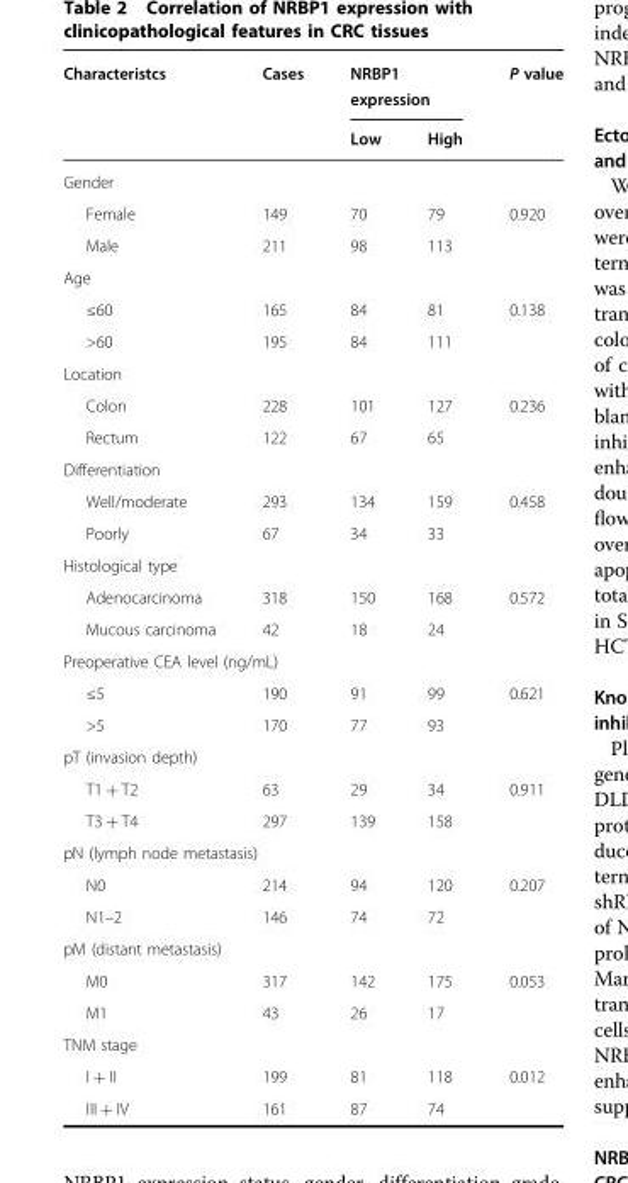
<table><thead><tr><td rowspan="2">Characteristcs</td><td rowspan="2">Cases</td><td colspan="2">NRBP1 expression</td><td rowspan="2">P value</td></tr><tr><td>Low</td><td>High</td></tr></thead><tbody><tr><td colspan="5">Gender</td></tr><tr><td>Female</td><td>149</td><td>70</td><td>79</td><td>0.920</td></tr><tr><td>Male</td><td>211</td><td>98</td><td>113</td><td></td></tr><tr><td colspan="5">Age</td></tr><tr><td>≤60</td><td>165</td><td>84</td><td>81</td><td>0.138</td></tr><tr><td>&gt;60</td><td>195</td><td>84</td><td>111</td><td></td></tr><tr><td colspan="5">Location</td></tr><tr><td>Colon</td><td>228</td><td>101</td><td>127</td><td>0.236</td></tr><tr><td>Rectum</td><td>122</td><td>67</td><td>65</td><td></td></tr><tr><td colspan="5">Differentiation</td></tr><tr><td>Well/moderate</td><td>293</td><td>134</td><td>159</td><td>0.458</td></tr><tr><td>Poorly</td><td>67</td><td>34</td><td>33</td><td></td></tr><tr><td colspan="5">Histological type</td></tr><tr><td>Adenocarcinoma</td><td>318</td><td>150</td><td>168</td><td>0.572</td></tr><tr><td>Mucous carcinoma</td><td>42</td><td>18</td><td>24</td><td></td></tr><tr><td colspan="5">Preoperative CEA level (ng/mL)</td></tr><tr><td>≤5</td><td>190</td><td>91</td><td>99</td><td>0.621</td></tr><tr><td>&gt;5</td><td>170</td><td>77</td><td>93</td><td></td></tr><tr><td colspan="5">pT (invasion depth)</td></tr><tr><td>T1 + T2</td><td>63</td><td>29</td><td>34</td><td>0.911</td></tr><tr><td>T3 + T4</td><td>297</td><td>139</td><td>158</td><td></td></tr><tr><td colspan="5">pN (lymph node metastasis)</td></tr><tr><td>N0</td><td>214</td><td>94</td><td>120</td><td>0.207</td></tr><tr><td>N1–2</td><td>146</td><td>74</td><td>72</td><td></td></tr><tr><td colspan="5">pM (distant metastasis)</td></tr><tr><td>M0</td><td>317</td><td>142</td><td>175</td><td>0.053</td></tr><tr><td>M1</td><td>43</td><td>26</td><td>17</td><td></td></tr><tr><td colspan="5">TNM stage</td></tr><tr><td>I + II</td><td>199</td><td>81</td><td>118</td><td>0.012</td></tr><tr><td>III + IV</td><td>161</td><td>87</td><td>74</td><td></td></tr></tbody></table>